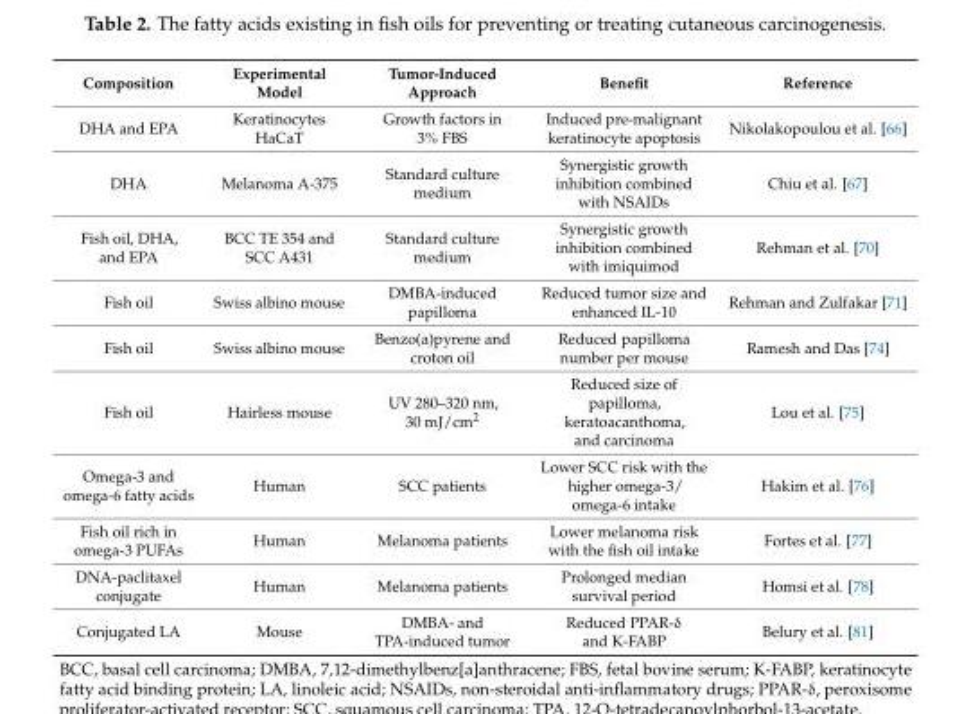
<table><thead><tr><td>Composition</td><td>Experimental Model</td><td>Tumor-Induced Approach</td><td>Benefit</td><td>Reference</td></tr></thead><tbody><tr><td>DHA and EPA</td><td>Keratinocytes HaCaT</td><td>Growth factors in 3% FBS</td><td>Induced pre-malignant keratinocyte apoptosis</td><td>Nikolakopoulou et al. [66]</td></tr><tr><td>DHA</td><td>Melanoma A-375</td><td>Standard culture medium</td><td>Synergistic growth inhibition combined with NSAIDs</td><td>Chiu et al. [67]</td></tr><tr><td>Fish oil, DHA, and EPA</td><td>BCC TE 354 and SCC A431</td><td>Standard culture medium</td><td>Synergistic growth inhibition combined with imiquimod</td><td>Rehman et al. [70]</td></tr><tr><td>Fish oil</td><td>Swiss albino mouse</td><td>DMBA-induced papilloma</td><td>Reduced tumor size and enhanced IL-10</td><td>Rehman and Zulfakar [71]</td></tr><tr><td>Fish oil</td><td>Swiss albino mouse</td><td>Benzo(a)pyrene and croton oil</td><td>Reduced papilloma number per mouse</td><td>Ramesh and Das [74]</td></tr><tr><td>Fish oil</td><td>Hairless mouse</td><td>UV 280–320 nm, 30 mJ/cm<sup>2</sup></td><td>Reduced size of papilloma, keratoacanthoma, and carcinoma</td><td>Lou et al. [75]</td></tr><tr><td>Omega-3 and omega-6 fatty acids</td><td>Human</td><td>SCC patients</td><td>Lower SCC risk with the higher omega-3/ omega-6 intake</td><td>Hakim et al. [76]</td></tr><tr><td>Fish oil rich in omega-3 PUFAs</td><td>Human</td><td>Melanoma patients</td><td>Lower melanoma risk with the fish oil intake</td><td>Fortes et al. [77]</td></tr><tr><td>DNA-paclitaxel conjugate</td><td>Human</td><td>Melanoma patients</td><td>Prolonged median survival period</td><td>Homsi et al. [78]</td></tr><tr><td>Conjugated LA</td><td>Mouse</td><td>DMBA- and TPA-induced tumor</td><td>Reduced PPAR-δ and K-FABP</td><td>Belury et al. [81]</td></tr></tbody></table>